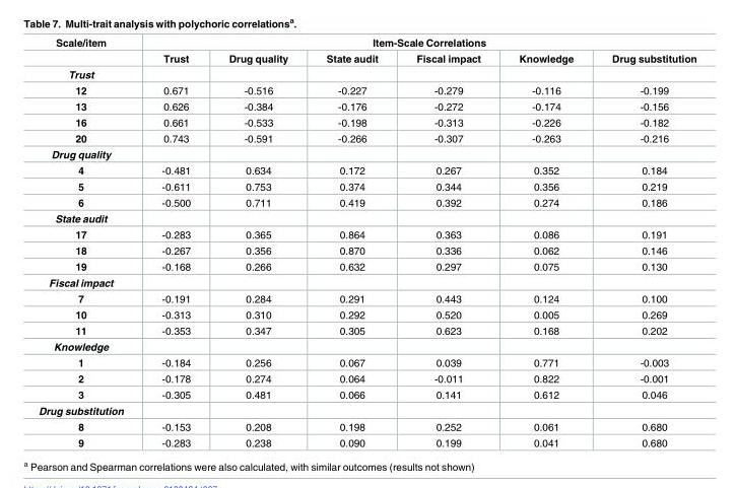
<table><thead><tr><td rowspan="2">Scale/item</td><td colspan="6">Item-Scale Correlations</td></tr><tr><td>Trust</td><td>Drug quality</td><td>State audit</td><td>Fiscal impact</td><td>Knowledge</td><td>Drug substitution</td></tr></thead><tbody><tr><td colspan="7">Trust</td></tr><tr><td>12</td><td>0.671</td><td>-0.516</td><td>-0.227</td><td>-0.279</td><td>-0.116</td><td>-0.199</td></tr><tr><td>13</td><td>0.626</td><td>-0.384</td><td>-0.176</td><td>-0.272</td><td>-0.174</td><td>-0.156</td></tr><tr><td>16</td><td>0.661</td><td>-0.533</td><td>-0.198</td><td>-0.313</td><td>-0.226</td><td>-0.182</td></tr><tr><td>20</td><td>0.743</td><td>-0.591</td><td>-0.266</td><td>-0.307</td><td>-0.263</td><td>-0.216</td></tr><tr><td colspan="7">Drug quality</td></tr><tr><td>4</td><td>-0.481</td><td>0.634</td><td>0.172</td><td>0.267</td><td>0.352</td><td>0.184</td></tr><tr><td>5</td><td>-0.611</td><td>0.753</td><td>0.374</td><td>0.344</td><td>0.356</td><td>0.219</td></tr><tr><td>6</td><td>-0.500</td><td>0.711</td><td>0.419</td><td>0.392</td><td>0.274</td><td>0.186</td></tr><tr><td colspan="7">State audit</td></tr><tr><td>17</td><td>-0.283</td><td>0.365</td><td>0.864</td><td>0.363</td><td>0.086</td><td>0.191</td></tr><tr><td>18</td><td>-0.267</td><td>0.356</td><td>0.870</td><td>0.336</td><td>0.062</td><td>0.146</td></tr><tr><td>19</td><td>-0.168</td><td>0.266</td><td>0.632</td><td>0.297</td><td>0.075</td><td>0.130</td></tr><tr><td colspan="7">Fiscal impact</td></tr><tr><td>7</td><td>-0.191</td><td>0.284</td><td>0.291</td><td>0.443</td><td>0.124</td><td>0.100</td></tr><tr><td>10</td><td>-0.313</td><td>0.310</td><td>0.292</td><td>0.520</td><td>0.005</td><td>0.269</td></tr><tr><td>11</td><td>-0.353</td><td>0.347</td><td>0.305</td><td>0.623</td><td>0.168</td><td>0.202</td></tr><tr><td colspan="7">Knowledge</td></tr><tr><td>1</td><td>-0.184</td><td>0.256</td><td>0.067</td><td>0.039</td><td>0.771</td><td>-0.003</td></tr><tr><td>2</td><td>-0.178</td><td>0.274</td><td>0.064</td><td>-0.011</td><td>0.822</td><td>-0.001</td></tr><tr><td>3</td><td>-0.305</td><td>0.481</td><td>0.066</td><td>0.141</td><td>0.612</td><td>0.046</td></tr><tr><td colspan="7">Drug substitution</td></tr><tr><td>8</td><td>-0.153</td><td>0.208</td><td>0.198</td><td>0.252</td><td>0.061</td><td>0.680</td></tr><tr><td>9</td><td>-0.283</td><td>0.238</td><td>0.090</td><td>0.199</td><td>0.041</td><td>0.680</td></tr></tbody></table>